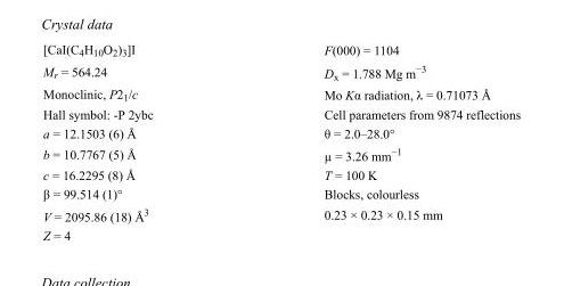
<table><tbody><tr><td>[CaI(C<sub>4</sub>H<sub>10</sub>O<sub>2</sub>)<sub>3</sub>]I</td><td>F(000) = 1104</td></tr><tr><td>M<sub>r</sub> = 564.24</td><td>D<sub>x</sub> = 1.788 Mg m<sup>−3</sup></td></tr><tr><td>Monoclinic, P2<sub>1</sub>/c</td><td>Mo Kα radiation, λ = 0.71073 Å</td></tr><tr><td>Hall symbol: -P 2ybc</td><td>Cell parameters from 9874 reflections</td></tr><tr><td>a = 12.1503 (6) Å</td><td>θ = 2.0–28.0°</td></tr><tr><td>b = 10.7767 (5) Å</td><td>µ = 3.26 mm<sup>−1</sup></td></tr><tr><td>c = 16.2295 (8) Å</td><td>T = 100 K</td></tr><tr><td>β = 99.514 (1)°</td><td>Blocks, colourless</td></tr><tr><td>V = 2095.86 (18) Å<sup>3</sup></td><td>0.23 × 0.23 × 0.15 mm</td></tr><tr><td>Z = 4</td><td></td></tr></tbody></table>